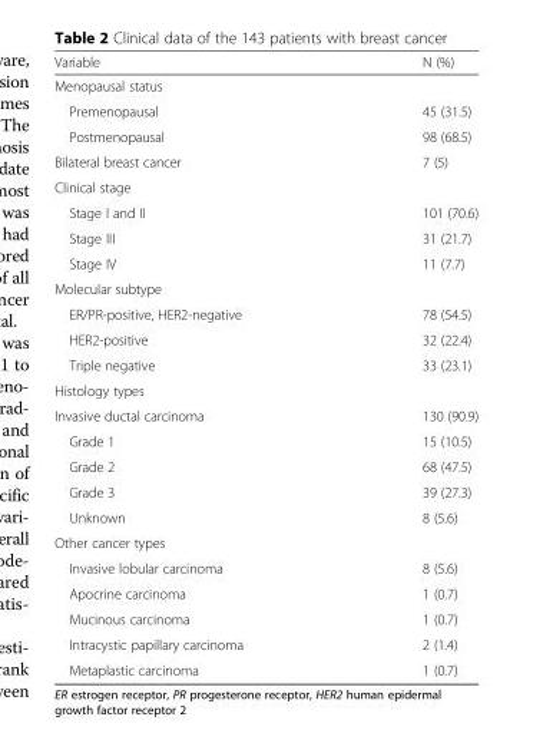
<table><thead><tr><td>Variable</td><td>N (%)</td></tr></thead><tbody><tr><td colspan="2">Menopausal status</td></tr><tr><td>Premenopausal</td><td>45 (31.5)</td></tr><tr><td>Postmenopausal</td><td>98 (68.5)</td></tr><tr><td>Bilateral breast cancer</td><td>7 (5)</td></tr><tr><td colspan="2">Clinical stage</td></tr><tr><td>Stage I and II</td><td>101 (70.6)</td></tr><tr><td>Stage III</td><td>31 (21.7)</td></tr><tr><td>Stage IV</td><td>11 (7.7)</td></tr><tr><td colspan="2">Molecular subtype</td></tr><tr><td>ER/PR-positive, HER2-negative</td><td>78 (54.5)</td></tr><tr><td>HER2-positive</td><td>32 (22.4)</td></tr><tr><td>Triple negative</td><td>33 (23.1)</td></tr><tr><td colspan="2">Histology types</td></tr><tr><td>Invasive ductal carcinoma</td><td>130 (90.9)</td></tr><tr><td>Grade 1</td><td>15 (10.5)</td></tr><tr><td>Grade 2</td><td>68 (47.5)</td></tr><tr><td>Grade 3</td><td>39 (27.3)</td></tr><tr><td>Unknown</td><td>8 (5.6)</td></tr><tr><td colspan="2">Other cancer types</td></tr><tr><td>Invasive lobular carcinoma</td><td>8 (5.6)</td></tr><tr><td>Apocrine carcinoma</td><td>1 (0.7)</td></tr><tr><td>Mucinous carcinoma</td><td>1 (0.7)</td></tr><tr><td>Intracystic papillary carcinoma</td><td>2 (1.4)</td></tr><tr><td>Metaplastic carcinoma</td><td>1 (0.7)</td></tr></tbody></table>